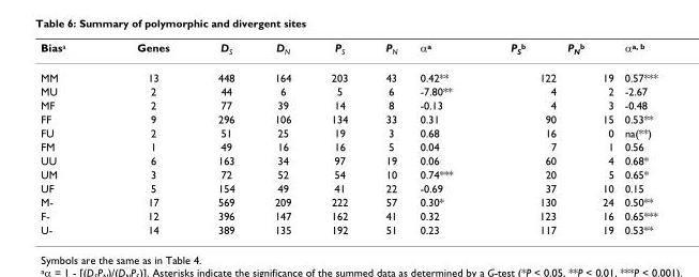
<table><thead><tr><td>Bias<sup>a</sup></td><td>Genes</td><td>D<sub>S</sub></td><td>D<sub>N</sub></td><td>P<sub>S</sub></td><td>P<sub>N</sub></td><td>α<sup>a</sup></td><td>P<sub>S</sub><sup>b</sup></td><td>P<sub>N</sub><sup>b</sup></td><td>α<sup>a, b</sup></td></tr></thead><tbody><tr><td>MM</td><td>13</td><td>448</td><td>164</td><td>203</td><td>43</td><td>0.42**</td><td>122</td><td>19</td><td>0.57***</td></tr><tr><td>MU</td><td>2</td><td>44</td><td>6</td><td>5</td><td>6</td><td>-7.80**</td><td>4</td><td>2</td><td>-2.67</td></tr><tr><td>MF</td><td>2</td><td>77</td><td>39</td><td>14</td><td>8</td><td>-0.13</td><td>4</td><td>3</td><td>-0.48</td></tr><tr><td>FF</td><td>9</td><td>296</td><td>106</td><td>134</td><td>33</td><td>0.31</td><td>90</td><td>15</td><td>0.53**</td></tr><tr><td>FU</td><td>2</td><td>51</td><td>25</td><td>19</td><td>3</td><td>0.68</td><td>16</td><td>0</td><td>na(**)</td></tr><tr><td>FM</td><td>1</td><td>49</td><td>16</td><td>16</td><td>5</td><td>0.04</td><td>7</td><td>1</td><td>0.56</td></tr><tr><td>UU</td><td>6</td><td>163</td><td>34</td><td>97</td><td>19</td><td>0.06</td><td>60</td><td>4</td><td>0.68*</td></tr><tr><td>UM</td><td>3</td><td>72</td><td>52</td><td>54</td><td>10</td><td>0.74***</td><td>20</td><td>5</td><td>0.65*</td></tr><tr><td>UF</td><td>5</td><td>154</td><td>49</td><td>41</td><td>22</td><td>-0.69</td><td>37</td><td>10</td><td>0.15</td></tr><tr><td>M-</td><td>17</td><td>569</td><td>209</td><td>222</td><td>57</td><td>0.30*</td><td>130</td><td>24</td><td>0.50**</td></tr><tr><td>F-</td><td>12</td><td>396</td><td>147</td><td>162</td><td>41</td><td>0.32</td><td>123</td><td>16</td><td>0.65***</td></tr><tr><td>U-</td><td>14</td><td>389</td><td>135</td><td>192</td><td>51</td><td>0.23</td><td>117</td><td>19</td><td>0.53**</td></tr></tbody></table>